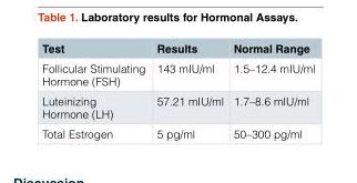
<table><thead><tr><td>Test</td><td>Results</td><td>Normal Range</td></tr></thead><tbody><tr><td>Follicular Stimulating Hormone (FSH)</td><td>143 mIU/ml</td><td>1.5–12.4 mIU/ml</td></tr><tr><td>Luteinizing Hormone (LH)</td><td>57.21 mIU/ml</td><td>1.7–8.6 mIU/ml</td></tr><tr><td>Total Estrogen</td><td>5 pg/ml</td><td>50–300 pg/ml</td></tr></tbody></table>